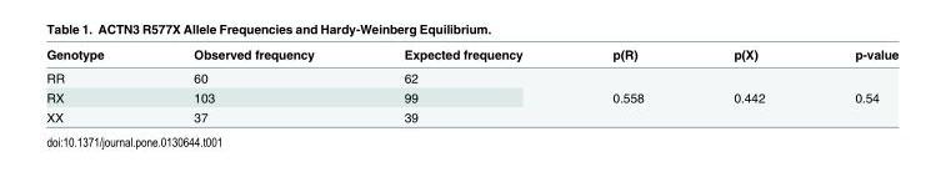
<table><thead><tr><td>Genotype</td><td>Observed frequency</td><td>Expected frequency</td><td>p(R)</td><td>p(X)</td><td>p-value</td></tr></thead><tbody><tr><td>RR</td><td>60</td><td>62</td><td rowspan="3">0.558</td><td rowspan="3">0.442</td><td rowspan="3">0.54</td></tr><tr><td>RX</td><td>103</td><td>99</td></tr><tr><td>XX</td><td>37</td><td>39</td></tr></tbody></table>